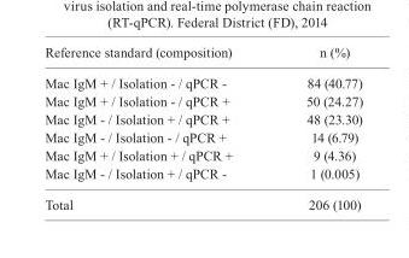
<table><thead><tr><td>Reference standard (composition)</td><td>n (%)</td></tr></thead><tbody><tr><td>Mac IgM + / Isolation - / qPCR -</td><td>84 (40.77)</td></tr><tr><td>Mac IgM + / Isolation - / qPCR +</td><td>50 (24.27)</td></tr><tr><td>Mac IgM - / Isolation + / qPCR +</td><td>48 (23.30)</td></tr><tr><td>Mac IgM - / Isolation - / qPCR +</td><td>14 (6.79)</td></tr><tr><td>Mac IgM + / Isolation + / qPCR +</td><td>9 (4.36)</td></tr><tr><td>Mac IgM - / Isolation + / qPCR -</td><td>1 (0.005)</td></tr><tr><td>Total</td><td>206 (100)</td></tr></tbody></table>